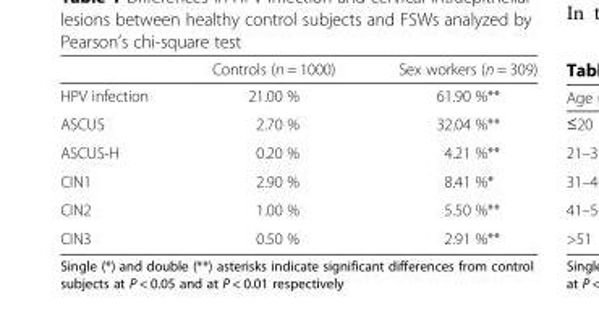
<table><thead><tr><td></td><td>Controls (n = 1000)</td><td>Sex workers (n = 309)</td></tr></thead><tbody><tr><td>HPV infection</td><td>21.00 %</td><td>61.90 %**</td></tr><tr><td>ASCUS</td><td>2.70 %</td><td>32.04 %**</td></tr><tr><td>ASCUS-H</td><td>0.20 %</td><td>4.21 %**</td></tr><tr><td>CIN1</td><td>2.90 %</td><td>8.41 %*</td></tr><tr><td>CIN2</td><td>1.00 %</td><td>5.50 %**</td></tr><tr><td>CIN3</td><td>0.50 %</td><td>2.91 %**</td></tr></tbody></table>